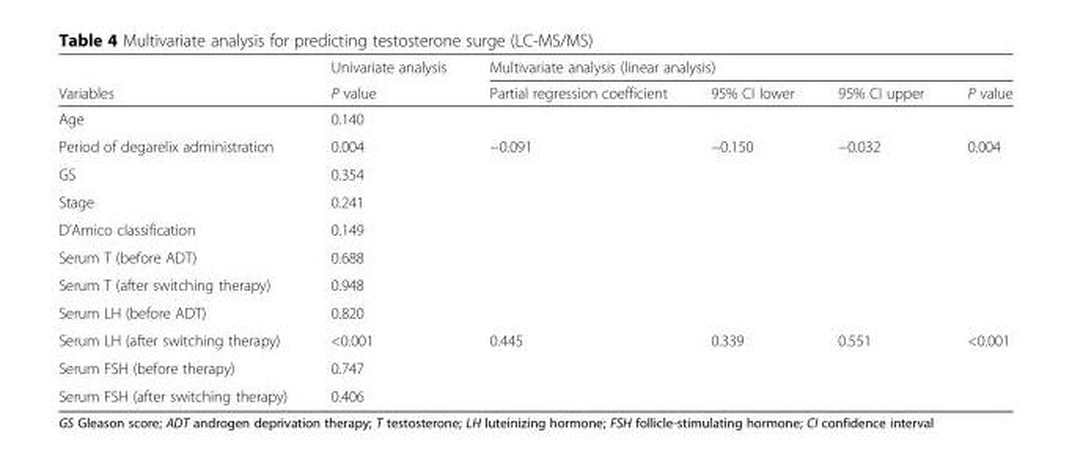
<table><thead><tr><td rowspan="2">Variables</td><td rowspan="2">Univariate analysis P value</td><td colspan="4">Multivariate analysis (linear analysis)</td></tr><tr><td>Partial regression coefficient</td><td>95% CI lower</td><td>95% CI upper</td><td>P value</td></tr></thead><tbody><tr><td>Age</td><td>0.140</td><td></td><td></td><td></td><td></td></tr><tr><td>Period of degarelix administration</td><td>0.004</td><td>−0.091</td><td>−0.150</td><td>−0.032</td><td>0.004</td></tr><tr><td>GS</td><td>0.354</td><td></td><td></td><td></td><td></td></tr><tr><td>Stage</td><td>0.241</td><td></td><td></td><td></td><td></td></tr><tr><td>D’Amico classification</td><td>0.149</td><td></td><td></td><td></td><td></td></tr><tr><td>Serum T (before ADT)</td><td>0.688</td><td></td><td></td><td></td><td></td></tr><tr><td>Serum T (after switching therapy)</td><td>0.948</td><td></td><td></td><td></td><td></td></tr><tr><td>Serum LH (before ADT)</td><td>0.820</td><td></td><td></td><td></td><td></td></tr><tr><td>Serum LH (after switching therapy)</td><td>&lt;0.001</td><td>0.445</td><td>0.339</td><td>0.551</td><td>&lt;0.001</td></tr><tr><td>Serum FSH (before therapy)</td><td>0.747</td><td></td><td></td><td></td><td></td></tr><tr><td>Serum FSH (after switching therapy)</td><td>0.406</td><td></td><td></td><td></td><td></td></tr></tbody></table>